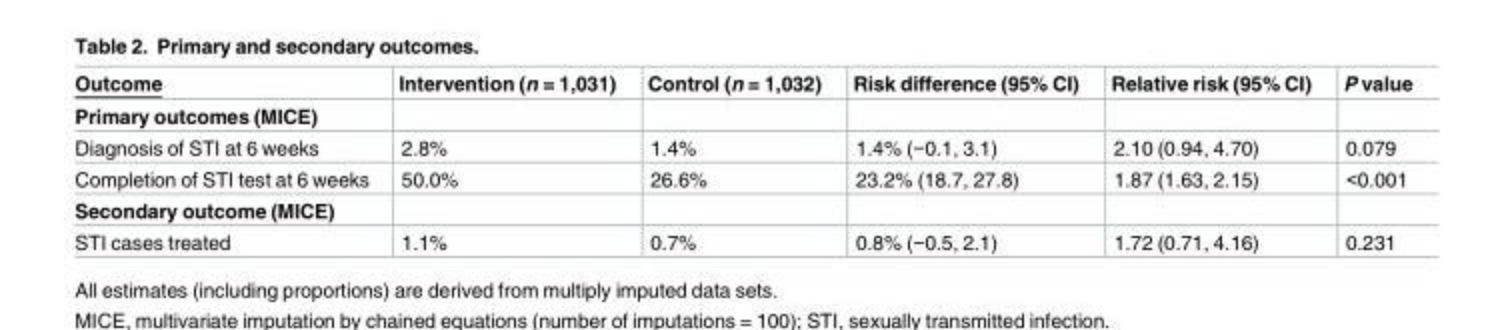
<table><thead><tr><td>Outcome</td><td>Intervention (n = 1,031)</td><td>Control (n = 1,032)</td><td>Risk difference (95% CI)</td><td>Relative risk (95% CI)</td><td>P value</td></tr></thead><tbody><tr><td colspan="6">Primary outcomes (MICE)</td></tr><tr><td>Diagnosis of STI at 6 weeks</td><td>2.8%</td><td>1.4%</td><td>1.4% (−0.1, 3.1)</td><td>2.10 (0.94, 4.70)</td><td>0.079</td></tr><tr><td>Completion of STI test at 6 weeks</td><td>50.0%</td><td>26.6%</td><td>23.2% (18.7, 27.8)</td><td>1.87 (1.63, 2.15)</td><td>&lt;0.001</td></tr><tr><td colspan="6">Secondary outcome (MICE)</td></tr><tr><td>STI cases treated</td><td>1.1%</td><td>0.7%</td><td>0.8% (−0.5, 2.1)</td><td>1.72 (0.71, 4.16)</td><td>0.231</td></tr></tbody></table>